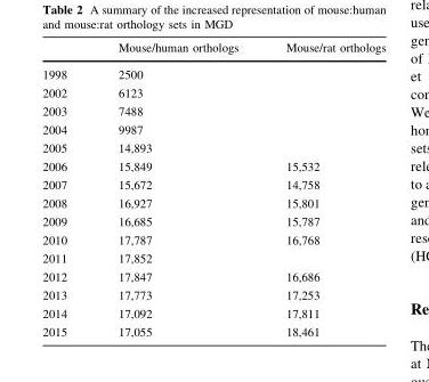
<table><thead><tr><td></td><td>Mouse/human orthologs</td><td>Mouse/rat orthologs</td></tr></thead><tbody><tr><td>1998</td><td>2500</td><td></td></tr><tr><td>2002</td><td>6123</td><td></td></tr><tr><td>2003</td><td>7488</td><td></td></tr><tr><td>2004</td><td>9987</td><td></td></tr><tr><td>2005</td><td>14,893</td><td></td></tr><tr><td>2006</td><td>15,849</td><td>15,532</td></tr><tr><td>2007</td><td>15,672</td><td>14,758</td></tr><tr><td>2008</td><td>16,927</td><td>15,801</td></tr><tr><td>2009</td><td>16,685</td><td>15,787</td></tr><tr><td>2010</td><td>17,787</td><td>16,768</td></tr><tr><td>2011</td><td>17,852</td><td></td></tr><tr><td>2012</td><td>17,847</td><td>16,686</td></tr><tr><td>2013</td><td>17,773</td><td>17,253</td></tr><tr><td>2014</td><td>17,092</td><td>17,811</td></tr><tr><td>2015</td><td>17,055</td><td>18,461</td></tr></tbody></table>